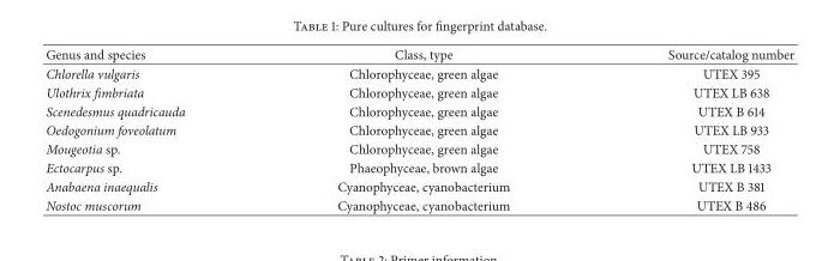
<table><thead><tr><td>Genus and species</td><td>Class, type</td><td>Source/catalog number</td></tr></thead><tbody><tr><td>Chlorella vulgaris</td><td>Chlorophyceae, green algae</td><td>UTEX 395</td></tr><tr><td>Ulothrix fimbriata</td><td>Chlorophyceae, green algae</td><td>UTEX LB 638</td></tr><tr><td>Scenedesmus quadricauda</td><td>Chlorophyceae, green algae</td><td>UTEX B 614</td></tr><tr><td>Oedogonium foveolatum</td><td>Chlorophyceae, green algae</td><td>UTEX LB 933</td></tr><tr><td>Mougeotia sp.</td><td>Chlorophyceae, green algae</td><td>UTEX 758</td></tr><tr><td>Ectocarpus sp.</td><td>Phaeophyceae, brown algae</td><td>UTEX LB 1433</td></tr><tr><td>Anabaena inaequalis</td><td>Cyanophyceae, cyanobacterium</td><td>UTEX B 381</td></tr><tr><td>Nostoc muscorum</td><td>Cyanophyceae, cyanobacterium</td><td>UTEX B 486</td></tr></tbody></table>